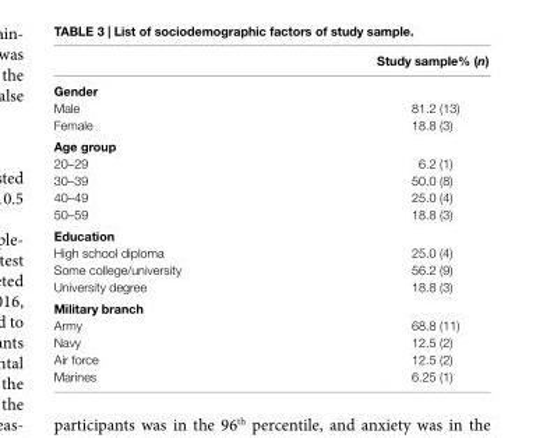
<table><thead><tr><td></td><td>study sample% (n)</td></tr></thead><tbody><tr><td colspan="2">gender</td></tr><tr><td>Male</td><td>81.2 (13)</td></tr><tr><td>Female</td><td>18.8 (3)</td></tr><tr><td colspan="2">age group</td></tr><tr><td>20–29</td><td>6.2 (1)</td></tr><tr><td>30–39</td><td>50.0 (8)</td></tr><tr><td>40–49</td><td>25.0 (4)</td></tr><tr><td>50–59</td><td>18.8 (3)</td></tr><tr><td colspan="2">education</td></tr><tr><td>High school diploma</td><td>25.0 (4)</td></tr><tr><td>Some college/university</td><td>56.2 (9)</td></tr><tr><td>University degree</td><td>18.8 (3)</td></tr><tr><td colspan="2">Military branch</td></tr><tr><td>Army</td><td>68.8 (11)</td></tr><tr><td>Navy</td><td>12.5 (2)</td></tr><tr><td>Air force</td><td>12.5 (2)</td></tr><tr><td>Marines</td><td>6.25 (1)</td></tr></tbody></table>